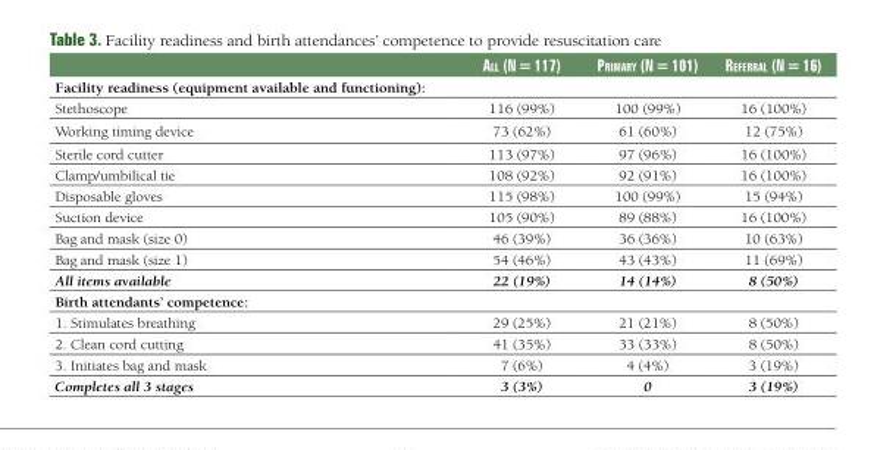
<table><thead><tr><td></td><td>all (n = 117)</td><td>primary (n = 101)</td><td>referral (n = 16)</td></tr></thead><tbody><tr><td colspan="4">Facility readiness (equipment available and functioning):</td></tr><tr><td>Stethoscope</td><td>116 (99%)</td><td>100 (99%)</td><td>16 (100%)</td></tr><tr><td>Working timing device</td><td>73 (62%)</td><td>61 (60%)</td><td>12 (75%)</td></tr><tr><td>Sterile cord cutter</td><td>113 (97%)</td><td>97 (96%)</td><td>16 (100%)</td></tr><tr><td>Clamp/umbilical tie</td><td>108 (92%)</td><td>92 (91%)</td><td>16 (100%)</td></tr><tr><td>Disposable gloves</td><td>115 (98%)</td><td>100 (99%)</td><td>15 (94%)</td></tr><tr><td>Suction device</td><td>105 (90%)</td><td>89 (88%)</td><td>16 (100%)</td></tr><tr><td>Bag and mask (size 0)</td><td>46 (39%)</td><td>36 (36%)</td><td>10 (63%)</td></tr><tr><td>Bag and mask (size 1)</td><td>54 (46%)</td><td>43 (43%)</td><td>11 (69%)</td></tr><tr><td>All items available</td><td>22 (19%)</td><td>14 (14%)</td><td>8 (50%)</td></tr><tr><td colspan="4">Birth attendants’ competence:</td></tr><tr><td>1. Stimulates breathing</td><td>29 (25%)</td><td>21 (21%)</td><td>8 (50%)</td></tr><tr><td>2. Clean cord cutting</td><td>41 (35%)</td><td>33 (33%)</td><td>8 (50%)</td></tr><tr><td>3. Initiates bag and mask</td><td>7 (6%)</td><td>4 (4%)</td><td>3 (19%)</td></tr><tr><td>Completes all 3 stages</td><td>3 (3%)</td><td>0</td><td>3 (19%)</td></tr></tbody></table>